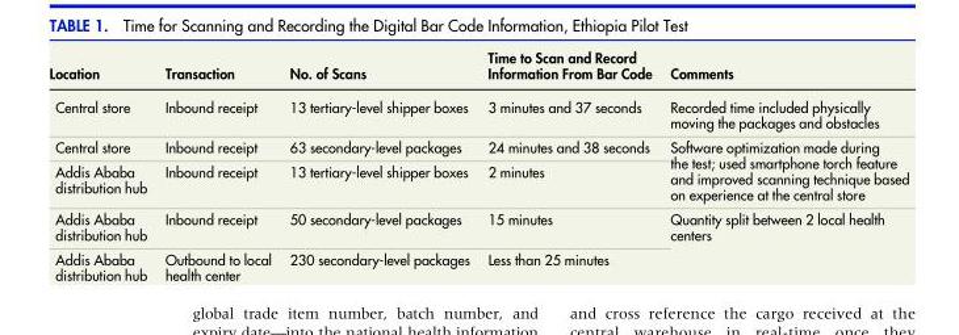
<table><thead><tr><td>Location</td><td>Transaction</td><td>No. of Scans</td><td>Time to Scan and Record Information From Bar Code</td><td>Comments</td></tr></thead><tbody><tr><td>Central store</td><td>Inbound receipt</td><td>13 tertiary-level shipper boxes</td><td>3 minutes and 37 seconds</td><td>Recorded time included physically moving the packages and obstacles</td></tr><tr><td>Central store</td><td>Inbound receipt</td><td>63 secondary-level packages</td><td>24 minutes and 38 seconds</td><td rowspan="2">Software optimization made during the test; used smartphone torch feature and improved scanning technique based on experience at the central store</td></tr><tr><td>Addis Ababa distribution hub</td><td>Inbound receipt</td><td>13 tertiary-level shipper boxes</td><td>2 minutes</td></tr><tr><td>Addis Ababa distribution hub</td><td>Inbound receipt</td><td>50 secondary-level packages</td><td>15 minutes</td><td rowspan="2">Quantity split between 2 local health centers</td></tr><tr><td>Addis Ababa distribution hub</td><td>Outbound to local health center</td><td>230 secondary-level packages</td><td>Less than 25 minutes</td></tr></tbody></table>